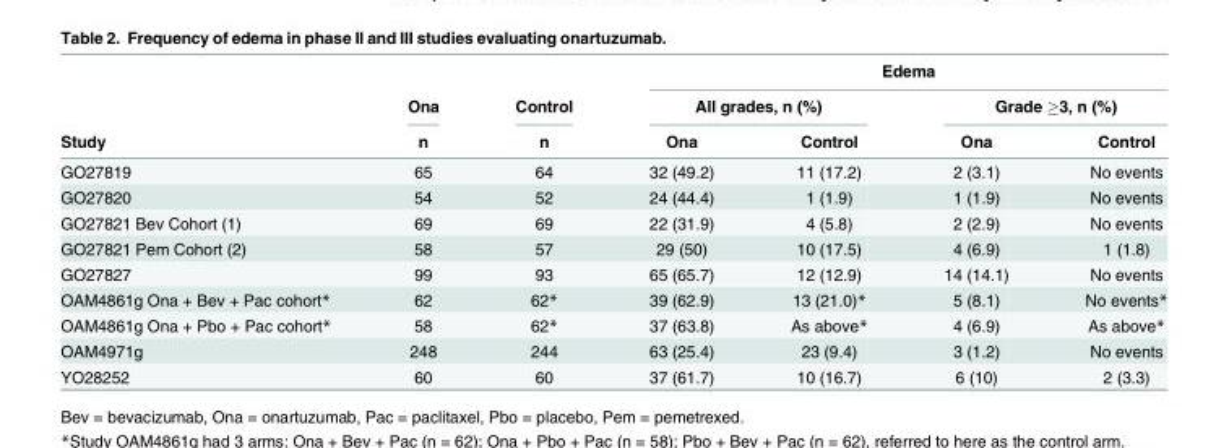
<table><thead><tr><td rowspan="3">Study</td><td rowspan="3">Ona n</td><td rowspan="3">Control n</td><td colspan="4">Edema</td></tr><tr><td colspan="2">All grades, n (%)</td><td colspan="2">Grade ≥3, n (%)</td></tr><tr><td>Ona</td><td>Control</td><td>Ona</td><td>Control</td></tr></thead><tbody><tr><td>GO27819</td><td>65</td><td>64</td><td>32 (49.2)</td><td>11 (17.2)</td><td>2 (3.1)</td><td>No events</td></tr><tr><td>GO27820</td><td>54</td><td>52</td><td>24 (44.4)</td><td>1 (1.9)</td><td>1 (1.9)</td><td>No events</td></tr><tr><td>GO27821 Bev Cohort (1)</td><td>69</td><td>69</td><td>22 (31.9)</td><td>4 (5.8)</td><td>2 (2.9)</td><td>No events</td></tr><tr><td>GO27821 Pem Cohort (2)</td><td>58</td><td>57</td><td>29 (50)</td><td>10 (17.5)</td><td>4 (6.9)</td><td>1 (1.8)</td></tr><tr><td>GO27827</td><td>99</td><td>93</td><td>65 (65.7)</td><td>12 (12.9)</td><td>14 (14.1)</td><td>No events</td></tr><tr><td>OAM4861g Ona + Bev + Pac cohort*</td><td>62</td><td>62*</td><td>39 (62.9)</td><td>13 (21.0)*</td><td>5 (8.1)</td><td>No events*</td></tr><tr><td>OAM4861g Ona + Pbo + Pac cohort*</td><td>58</td><td>62*</td><td>37 (63.8)</td><td>As above*</td><td>4 (6.9)</td><td>As above*</td></tr><tr><td>OAM4971g</td><td>248</td><td>244</td><td>63 (25.4)</td><td>23 (9.4)</td><td>3 (1.2)</td><td>No events</td></tr><tr><td>YO28252</td><td>60</td><td>60</td><td>37 (61.7)</td><td>10 (16.7)</td><td>6 (10)</td><td>2 (3.3)</td></tr></tbody></table>